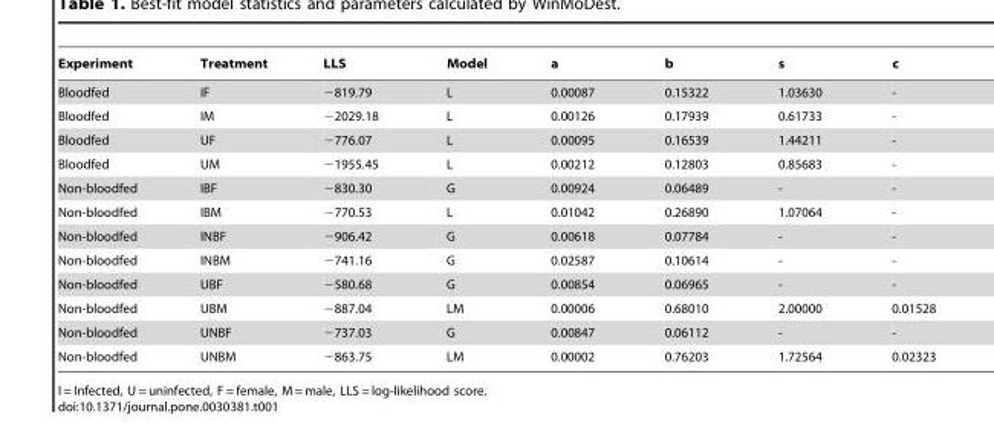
<table><thead><tr><td>Experiment</td><td>Treatment</td><td>LLS</td><td>Model</td><td>a</td><td>b</td><td>s</td><td>c</td></tr></thead><tbody><tr><td>Bloodfed</td><td>IF</td><td>−819.79</td><td>L</td><td>0.00087</td><td>0.15322</td><td>1.03630</td><td>-</td></tr><tr><td>Bloodfed</td><td>IM</td><td>−2029.18</td><td>L</td><td>0.00126</td><td>0.17939</td><td>0.61733</td><td>-</td></tr><tr><td>Bloodfed</td><td>UF</td><td>−776.07</td><td>L</td><td>0.00095</td><td>0.16539</td><td>1.44211</td><td>-</td></tr><tr><td>Bloodfed</td><td>UM</td><td>−1955.45</td><td>L</td><td>0.00212</td><td>0.12803</td><td>0.85683</td><td>-</td></tr><tr><td>Non-bloodfed</td><td>IBF</td><td>−830.30</td><td>G</td><td>0.00924</td><td>0.06489</td><td>-</td><td>-</td></tr><tr><td>Non-bloodfed</td><td>IBM</td><td>−770.53</td><td>L</td><td>0.01042</td><td>0.26890</td><td>1.07064</td><td>-</td></tr><tr><td>Non-bloodfed</td><td>INBF</td><td>−906.42</td><td>G</td><td>0.00618</td><td>0.07784</td><td>-</td><td>-</td></tr><tr><td>Non-bloodfed</td><td>INBM</td><td>−741.16</td><td>G</td><td>0.02587</td><td>0.10614</td><td>-</td><td>-</td></tr><tr><td>Non-bloodfed</td><td>UBF</td><td>−580.68</td><td>G</td><td>0.00854</td><td>0.06965</td><td>-</td><td>-</td></tr><tr><td>Non-bloodfed</td><td>UBM</td><td>−887.04</td><td>LM</td><td>0.00006</td><td>0.68010</td><td>2.00000</td><td>0.01528</td></tr><tr><td>Non-bloodfed</td><td>UNBF</td><td>−737.03</td><td>G</td><td>0.00847</td><td>0.06112</td><td>-</td><td>-</td></tr><tr><td>Non-bloodfed</td><td>UNBM</td><td>−863.75</td><td>LM</td><td>0.00002</td><td>0.76203</td><td>1.72564</td><td>0.02323</td></tr></tbody></table>